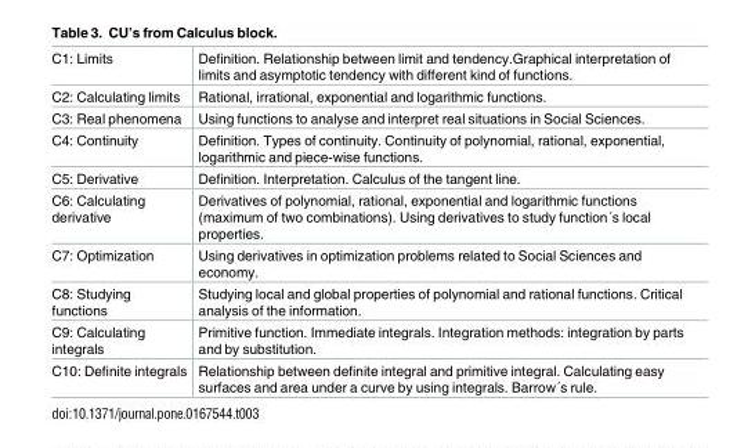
<table><tbody><tr><td>C1: Limits</td><td>Definition. Relationship between limit and tendency.Graphical interpretation of limits and asymptotic tendency with different kind of functions.</td></tr><tr><td>C2: Calculating limits</td><td>Rational, irrational, exponential and logarithmic functions.</td></tr><tr><td>C3: Real phenomena</td><td>Using functions to analyse and interpret real situations in Social Sciences.</td></tr><tr><td>C4: Continuity</td><td>Definition. Types of continuity. Continuity of polynomial, rational, exponential, logarithmic and piece-wise functions.</td></tr><tr><td>C5: Derivative</td><td>Definition. Interpretation. Calculus of the tangent line.</td></tr><tr><td>C6: Calculating derivative</td><td>Derivatives of polynomial, rational, exponential and logarithmic functions (maximum of two combinations). Using derivatives to study function´s local properties.</td></tr><tr><td>C7: Optimization</td><td>Using derivatives in optimization problems related to Social Sciences and economy.</td></tr><tr><td>C8: Studying functions</td><td>Studying local and global properties of polynomial and rational functions. Critical analysis of the information.</td></tr><tr><td>C9: Calculating integrals</td><td>Primitive function. Immediate integrals. Integration methods: integration by parts and by substitution.</td></tr><tr><td>C10: Definite integrals</td><td>Relationship between definite integral and primitive integral. Calculating easy surfaces and area under a curve by using integrals. Barrow´s rule.</td></tr></tbody></table>